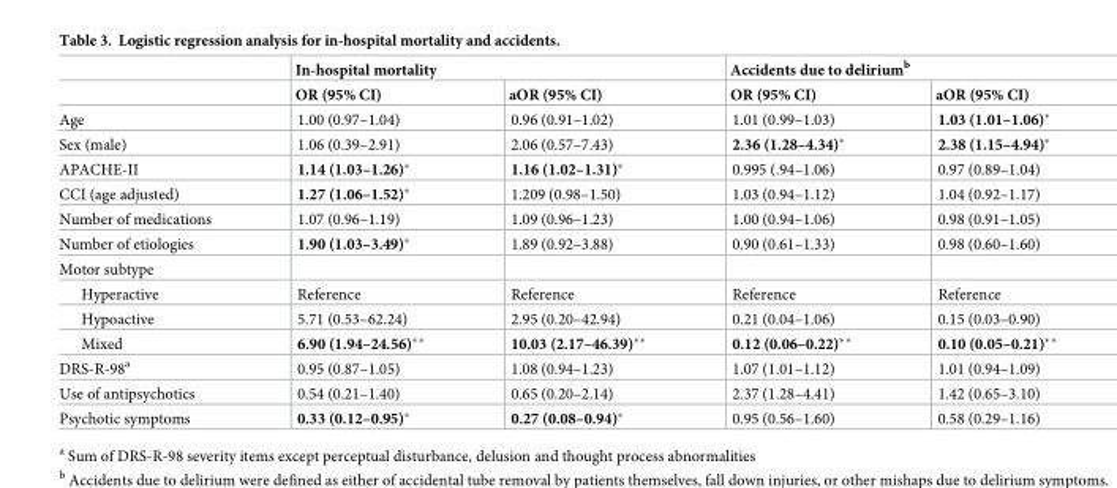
<table><thead><tr><td rowspan="2"></td><td colspan="2">In-hospital mortality</td><td colspan="2">Accidents due to delirium<sup>b</sup></td></tr><tr><td>OR (95% CI)</td><td>aOR (95% CI)</td><td>OR (95% CI)</td><td>aOR (95% CI)</td></tr></thead><tbody><tr><td>Age</td><td>1.00 (0.97–1.04)</td><td>0.96 (0.91–1.02)</td><td>1.01 (0.99–1.03)</td><td>1.03 (1.01–1.06)*</td></tr><tr><td>Sex (male)</td><td>1.06 (0.39–2.91)</td><td>2.06 (0.57–7.43)</td><td>2.36 (1.28–4.34)*</td><td>2.38 (1.15–4.94)*</td></tr><tr><td>APACHE-II</td><td>1.14 (1.03–1.26)*</td><td>1.16 (1.02–1.31)*</td><td>0.995 (.94–1.06)</td><td>0.97 (0.89–1.04)</td></tr><tr><td>CCI (age adjusted)</td><td>1.27 (1.06–1.52)*</td><td>1.209 (0.98–1.50)</td><td>1.03 (0.94–1.12)</td><td>1.04 (0.92–1.17)</td></tr><tr><td>Number of medications</td><td>1.07 (0.96–1.19)</td><td>1.09 (0.96–1.23)</td><td>1.00 (0.94–1.06)</td><td>0.98 (0.91–1.05)</td></tr><tr><td>Number of etiologies</td><td>1.90 (1.03–3.49)*</td><td>1.89 (0.92–3.88)</td><td>0.90 (0.61–1.33)</td><td>0.98 (0.60–1.60)</td></tr><tr><td colspan="5">Motor subtype</td></tr><tr><td>Hyperactive</td><td>Reference</td><td>Reference</td><td>Reference</td><td>Reference</td></tr><tr><td>Hypoactive</td><td>5.71 (0.53–62.24)</td><td>2.95 (0.20–42.94)</td><td>0.21 (0.04–1.06)</td><td>0.15 (0.03–0.90)</td></tr><tr><td>Mixed</td><td>6.90 (1.94–24.56)**</td><td>10.03 (2.17–46.39)**</td><td>0.12 (0.06–0.22)**</td><td>0.10 (0.05–0.21)**</td></tr><tr><td>DRS-R-98<sup>a</sup></td><td>0.95 (0.87–1.05)</td><td>1.08 (0.94–1.23)</td><td>1.07 (1.01–1.12)</td><td>1.01 (0.94–1.09)</td></tr><tr><td>Use of antipsychotics</td><td>0.54 (0.21–1.40)</td><td>0.65 (0.20–2.14)</td><td>2.37 (1.28–4.41)</td><td>1.42 (0.65–3.10)</td></tr><tr><td>Psychotic symptoms</td><td>0.33 (0.12–0.95)*</td><td>0.27 (0.08–0.94)*</td><td>0.95 (0.56–1.60)</td><td>0.58 (0.29–1.16)</td></tr></tbody></table>